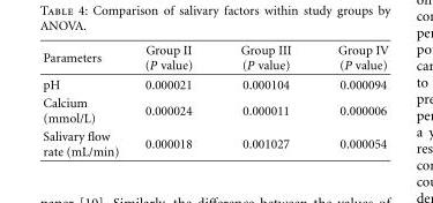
<table><thead><tr><td>Parameters</td><td>Group II (P value)</td><td>Group III (P value)</td><td>Group IV (P value)</td></tr></thead><tbody><tr><td>pH</td><td>0.000021</td><td>0.000104</td><td>0.000094</td></tr><tr><td>Calcium (mmol/L)</td><td>0.000024</td><td>0.000011</td><td>0.000006</td></tr><tr><td>Salivary flow rate (mL/min)</td><td>0.000018</td><td>0.001027</td><td>0.000054</td></tr></tbody></table>